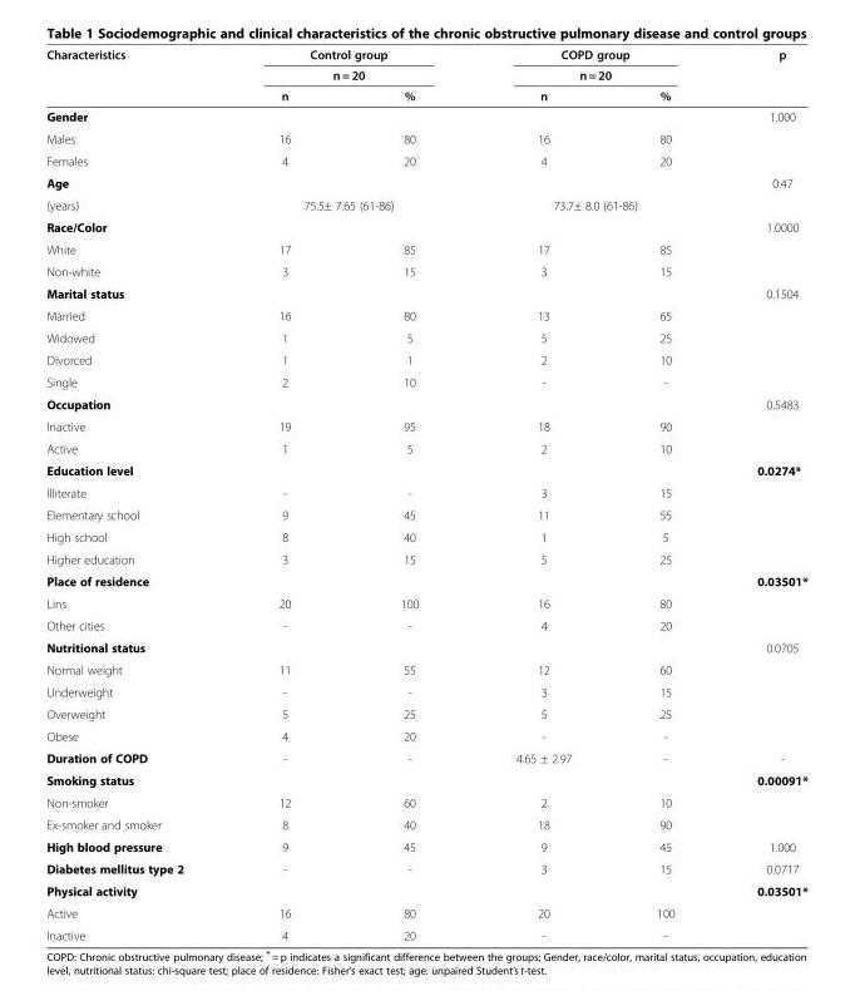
<table><thead><tr><td rowspan="3">Characteristics</td><td rowspan="2" colspan="2">Control group n = 20</td><td rowspan="2" colspan="2">COPD group n = 20</td><td rowspan="3">p</td></tr><tr></tr><tr><td>n</td><td>%</td><td>n</td><td>%</td></tr></thead><tbody><tr><td colspan="5">Gender</td><td rowspan="3">1.000</td></tr><tr><td>Males</td><td>16</td><td>80</td><td>16</td><td>80</td></tr><tr><td>Females</td><td>4</td><td>20</td><td>4</td><td>20</td></tr><tr><td colspan="5">Age</td><td rowspan="2">0.47</td></tr><tr><td>(years)</td><td colspan="2">75.5± 7.65 (61-86)</td><td colspan="2">73.7± 8.0 (61-86)</td></tr><tr><td colspan="5">Race/Color</td><td rowspan="3">1.0000</td></tr><tr><td>White</td><td>17</td><td>85</td><td>17</td><td>85</td></tr><tr><td>Non-white</td><td>3</td><td>15</td><td>3</td><td>15</td></tr><tr><td colspan="5">Marital status</td><td rowspan="5">0.1504</td></tr><tr><td>Married</td><td>16</td><td>80</td><td>13</td><td>65</td></tr><tr><td>Widowed</td><td>1</td><td>5</td><td>5</td><td>25</td></tr><tr><td>Divorced</td><td>1</td><td>1</td><td>2</td><td>10</td></tr><tr><td>Single</td><td>2</td><td>10</td><td>-</td><td>-</td></tr><tr><td colspan="5">Occupation</td><td rowspan="3">0.5483</td></tr><tr><td>Inactive</td><td>19</td><td>95</td><td>18</td><td>90</td></tr><tr><td>Active</td><td>1</td><td>5</td><td>2</td><td>10</td></tr><tr><td colspan="5">Education level</td><td rowspan="5">0.0274*</td></tr><tr><td>Illiterate</td><td>-</td><td>-</td><td>3</td><td>15</td></tr><tr><td>Elementary school</td><td>9</td><td>45</td><td>11</td><td>55</td></tr><tr><td>High school</td><td>8</td><td>40</td><td>1</td><td>5</td></tr><tr><td>Higher education</td><td>3</td><td>15</td><td>5</td><td>25</td></tr><tr><td colspan="5">Place of residence</td><td rowspan="3">0.03501*</td></tr><tr><td>Lins</td><td>20</td><td>100</td><td>16</td><td>80</td></tr><tr><td>Other cities</td><td>-</td><td>-</td><td>4</td><td>20</td></tr><tr><td colspan="5">Nutritional status</td><td rowspan="5">0.0705</td></tr><tr><td>Normal weight</td><td>11</td><td>55</td><td>12</td><td>60</td></tr><tr><td>Underweight</td><td>-</td><td>-</td><td>3</td><td>15</td></tr><tr><td>Overweight</td><td>5</td><td>25</td><td>5</td><td>25</td></tr><tr><td>Obese</td><td>4</td><td>20</td><td>-</td><td>-</td></tr><tr><td>Duration of COPD</td><td>-</td><td>-</td><td>4.65 ± 2.97</td><td>-</td><td>-</td></tr><tr><td colspan="5">Smoking status</td><td rowspan="3">0.00091*</td></tr><tr><td>Non-smoker</td><td>12</td><td>60</td><td>2</td><td>10</td></tr><tr><td>Ex-smoker and smoker</td><td>8</td><td>40</td><td>18</td><td>90</td></tr><tr><td>High blood pressure</td><td>9</td><td>45</td><td>9</td><td>45</td><td>1.000</td></tr><tr><td>Diabetes mellitus type 2</td><td>-</td><td>-</td><td>3</td><td>15</td><td>0.0717</td></tr><tr><td colspan="5">Physical activity</td><td rowspan="2">0.03501*</td></tr><tr><td>Active</td><td>16</td><td>80</td><td>20</td><td>100</td></tr><tr><td>Inactive</td><td>4</td><td>20</td><td>-</td><td>-</td><td></td></tr></tbody></table>